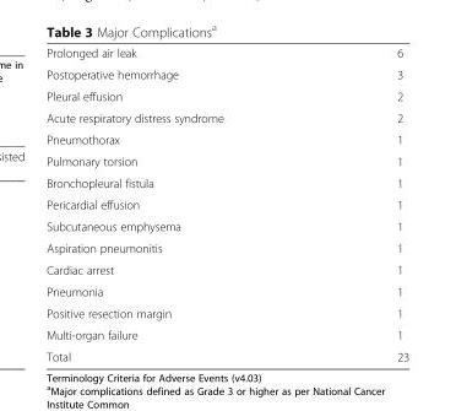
<table><tbody><tr><td>Prolonged air leak</td><td>6</td></tr><tr><td>Postoperative hemorrhage</td><td>3</td></tr><tr><td>Pleural effusion</td><td>2</td></tr><tr><td>Acute respiratory distress syndrome</td><td>2</td></tr><tr><td>Pneumothorax</td><td>1</td></tr><tr><td>Pulmonary torsion</td><td>1</td></tr><tr><td>Bronchopleural fistula</td><td>1</td></tr><tr><td>Pericardial effusion</td><td>1</td></tr><tr><td>Subcutaneous emphysema</td><td>1</td></tr><tr><td>Aspiration pneumonitis</td><td>1</td></tr><tr><td>Cardiac arrest</td><td>1</td></tr><tr><td>Pneumonia</td><td>1</td></tr><tr><td>Positive resection margin</td><td>1</td></tr><tr><td>Multi-organ failure</td><td>1</td></tr><tr><td>Total</td><td>23</td></tr></tbody></table>